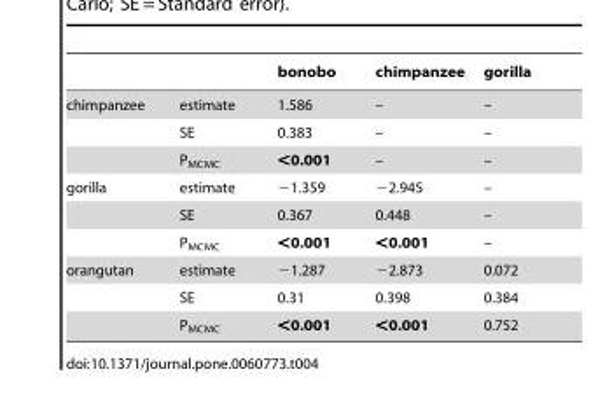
<table><thead><tr><td></td><td></td><td>bonobo</td><td>chimpanzee</td><td>gorilla</td></tr></thead><tbody><tr><td rowspan="3">chimpanzee</td><td>estimate</td><td>1.586</td><td>–</td><td>–</td></tr><tr><td>SE</td><td>0.383</td><td>–</td><td>–</td></tr><tr><td>P<sub>MCMC</sub></td><td>&lt;0.001</td><td>–</td><td>–</td></tr><tr><td rowspan="3">gorilla</td><td>estimate</td><td>−1.359</td><td>−2.945</td><td>–</td></tr><tr><td>SE</td><td>0.367</td><td>0.448</td><td>–</td></tr><tr><td>P<sub>MCMC</sub></td><td>&lt;0.001</td><td>&lt;0.001</td><td>–</td></tr><tr><td rowspan="3">orangutan</td><td>estimate</td><td>−1.287</td><td>−2.873</td><td>0.072</td></tr><tr><td>SE</td><td>0.31</td><td>0.398</td><td>0.384</td></tr><tr><td>P<sub>MCMC</sub></td><td>&lt;0.001</td><td>&lt;0.001</td><td>0.752</td></tr></tbody></table>